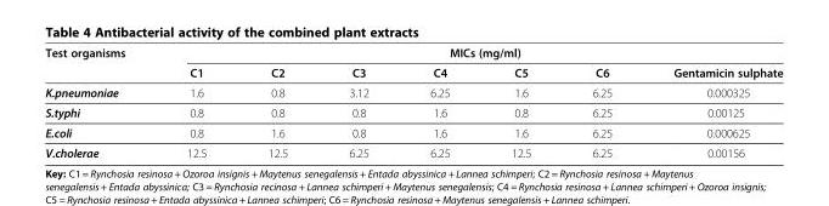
<table><thead><tr><td rowspan="2">Test organisms</td><td colspan="7">MICs (mg/ml)</td></tr><tr><td>C1</td><td>C2</td><td>C3</td><td>C4</td><td>C5</td><td>C6</td><td>Gentamicin sulphate</td></tr></thead><tbody><tr><td>K.pneumoniae</td><td>1.6</td><td>0.8</td><td>3.12</td><td>6.25</td><td>1.6</td><td>6.25</td><td>0.000325</td></tr><tr><td>S.typhi</td><td>0.8</td><td>0.8</td><td>0.8</td><td>1.6</td><td>0.8</td><td>6.25</td><td>0.00125</td></tr><tr><td>E.coli</td><td>0.8</td><td>1.6</td><td>0.8</td><td>1.6</td><td>1.6</td><td>6.25</td><td>0.000625</td></tr><tr><td>V.cholerae</td><td>12.5</td><td>12.5</td><td>6.25</td><td>6.25</td><td>12.5</td><td>6.25</td><td>0.00156</td></tr></tbody></table>